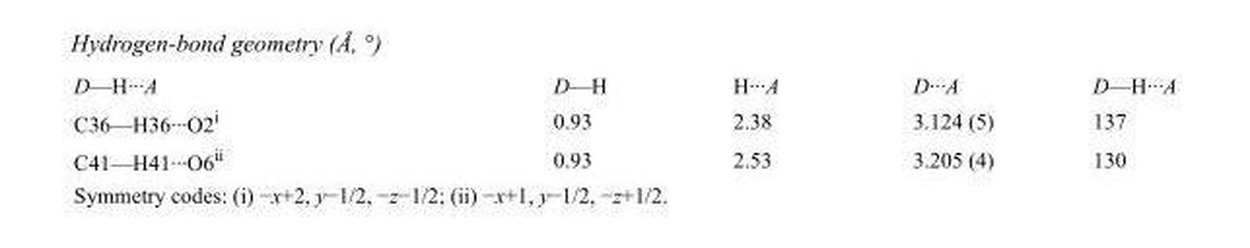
<table><tbody><tr><td>D—H···A</td><td>D—H</td><td>H···A</td><td>D···A</td><td>D—H···A</td></tr><tr><td>C36—H36···O2<sup>i</sup></td><td>0.93</td><td>2.38</td><td>3.124 (5)</td><td>137</td></tr><tr><td>C41—H41···O6<sup>ii</sup></td><td>0.93</td><td>2.53</td><td>3.205 (4)</td><td>130</td></tr></tbody></table>